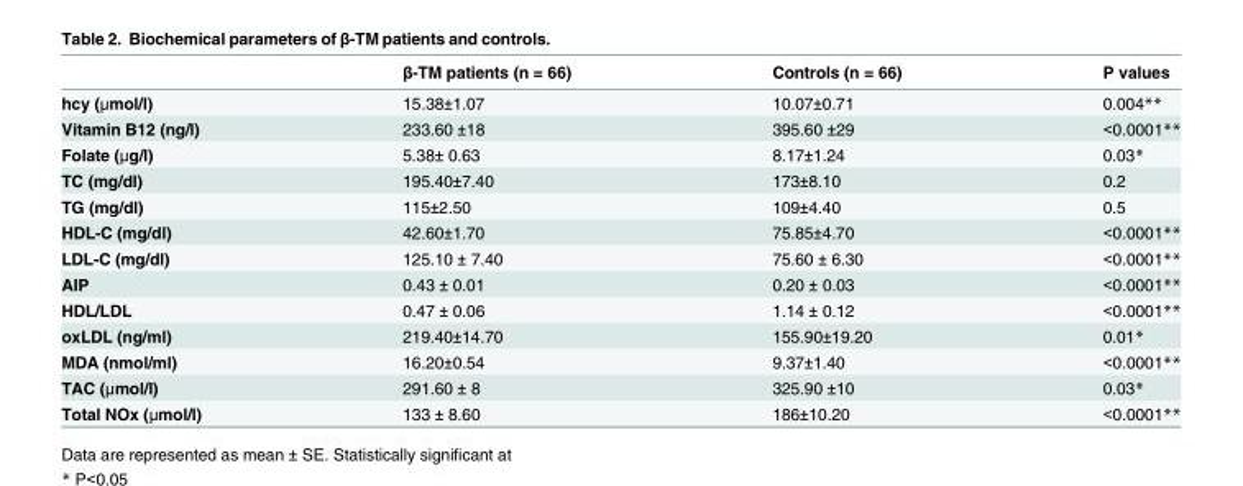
<table><thead><tr><td></td><td>β-TM patients (n = 66)</td><td>Controls (n = 66)</td><td>P values</td></tr></thead><tbody><tr><td>hcy (μmol/l)</td><td>15.38±1.07</td><td>10.07±0.71</td><td>0.004**</td></tr><tr><td>Vitamin B12 (ng/l)</td><td>233.60 ±18</td><td>395.60 ±29</td><td>&lt;0.0001**</td></tr><tr><td>Folate (μg/l)</td><td>5.38± 0.63</td><td>8.17±1.24</td><td>0.03*</td></tr><tr><td>TC (mg/dl)</td><td>195.40±7.40</td><td>173±8.10</td><td>0.2</td></tr><tr><td>TG (mg/dl)</td><td>115±2.50</td><td>109±4.40</td><td>0.5</td></tr><tr><td>HDL-C (mg/dl)</td><td>42.60±1.70</td><td>75.85±4.70</td><td>&lt;0.0001**</td></tr><tr><td>LDL-C (mg/dl)</td><td>125.10 ± 7.40</td><td>75.60 ± 6.30</td><td>&lt;0.0001**</td></tr><tr><td>AIP</td><td>0.43 ± 0.01</td><td>0.20 ± 0.03</td><td>&lt;0.0001**</td></tr><tr><td>HDL/LDL</td><td>0.47 ± 0.06</td><td>1.14 ± 0.12</td><td>&lt;0.0001**</td></tr><tr><td>oxLDL (ng/ml)</td><td>219.40±14.70</td><td>155.90±19.20</td><td>0.01*</td></tr><tr><td>MDA (nmol/ml)</td><td>16.20±0.54</td><td>9.37±1.40</td><td>&lt;0.0001**</td></tr><tr><td>TAC (μmol/l)</td><td>291.60 ± 8</td><td>325.90 ±10</td><td>0.03*</td></tr><tr><td>Total NOx (μmol/l)</td><td>133 ± 8.60</td><td>186±10.20</td><td>&lt;0.0001**</td></tr></tbody></table>